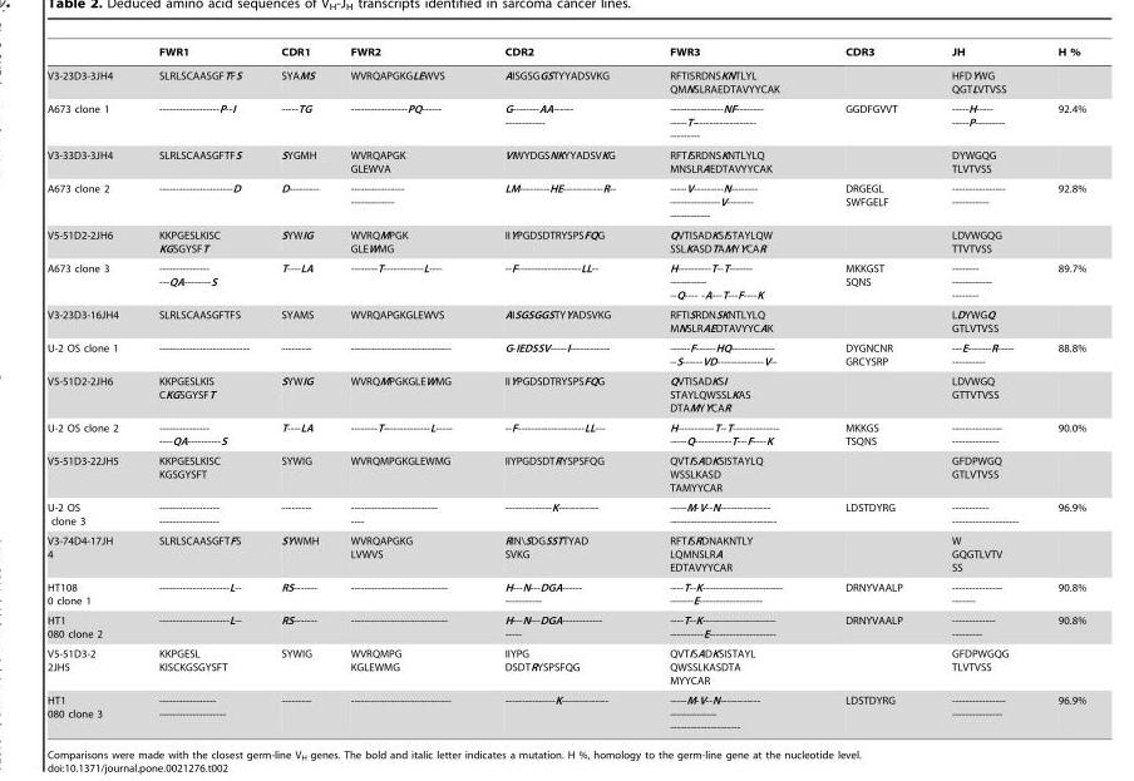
<table><thead><tr><td></td><td>FWR1</td><td>CDR1</td><td>FWR2</td><td>CDR2</td><td>FWR3</td><td>CDR3</td><td>JH</td><td>H %</td></tr></thead><tbody><tr><td>V3-23D3-3JH4</td><td>SLRLSCAASGFTFS</td><td>SYAMS</td><td>WVRQAPGKGLEWVS</td><td>AISGSGGSTYYADSVKG</td><td>RFTISRDNSKNTLYL QMNSLRAEDTAVYYCAK</td><td></td><td>HFDYWG QGTLVTVSS</td><td></td></tr><tr><td>A673 clone 1</td><td>------------------P--I</td><td>-----TG</td><td>-----------------PQ------</td><td>G--------AA------ ------------</td><td>----------------NF-------- -----T------------------- ---------</td><td>GGDFGVVT</td><td>-----H----- -----P---------</td><td>92.4%</td></tr><tr><td>V3-33D3-3JH4</td><td>SLRLSCAASGFTFS</td><td>SYGMH</td><td>WVRQAPGK GLEWVA</td><td>VIWYDGSNKYYADSVKG</td><td>RFTISRDNSKNTLYLQ MNSLRAEDTAVYYCAK</td><td></td><td>DYWGQG TLVTVSS</td><td></td></tr><tr><td>A673 clone 2</td><td>----------------------D</td><td>D---------</td><td>---------------- -------------</td><td>LM---------HE------------R--</td><td>-----V---------N-------- ---------------V-------- ------------</td><td>DRGEGL SWFGELF</td><td>---------------- -----------</td><td>92.8%</td></tr><tr><td>V5-51D2-2JH6</td><td>KKPGESLKISC KGSGYSFT</td><td>SYWIG</td><td>WVRQMPGK GLEWMG</td><td>IIYPGDSDTRYSPSFQG</td><td>QVTISADKSISTAYLQW SSLKASDTAMYYCAR</td><td></td><td>LDVWGQG TTVTVSS</td><td></td></tr><tr><td>A673 clone 3</td><td>--------------- ---QA--------S</td><td>T----LA</td><td>--------T------------L----</td><td>--F-------------------LL--</td><td>H----------T--T------- ----------- --Q---- -A---T---F----K</td><td>MKKGST SQNS</td><td>-------- ------------ --------</td><td>89.7%</td></tr><tr><td>V3-23D3-16JH4</td><td>SLRLSCAASGFTFS</td><td>SYAMS</td><td>WVRQAPGKGLEWVS</td><td>AISGSGGSTYYADSVKG</td><td>RFTISRDNSKNTLYLQ MNSLRAEDTAVYYCAK</td><td></td><td>LDYWGQ GTLVTVSS</td><td></td></tr><tr><td>U-2 OS clone 1</td><td>---------------------------</td><td>---------</td><td>------------------------------</td><td>G-IEDSSV-----I------------</td><td>------F------HQ------------- --S------VD--------------V--</td><td>DYGNCNR GRCYSRP</td><td>---E-------R----- ----------</td><td>88.8%</td></tr><tr><td>V5-51D2-2JH6</td><td>KKPGESLKIS CKGSGYSFT</td><td>SYWIG</td><td>WVRQMPGKGLEWMG</td><td>IIYPGDSDTRYSPSFQG</td><td>QVTISADKSI STAYLQWSSLKAS DTAMYYCAR</td><td></td><td>LDVWGQ GTTVTVSS</td><td></td></tr><tr><td>U-2 OS clone 2</td><td>--------------- ----QA----------S</td><td>T----LA</td><td>--------T--------------L-----</td><td>--F--------------------LL---</td><td>H-----------T--T-------------- -----Q-----------T---F----K</td><td>MKKGS TSQNS</td><td>--------------- --------------</td><td>90.0%</td></tr><tr><td>V5-51D3-22JH5</td><td>KKPGESLKISC KGSGYSFT</td><td>SYWIG</td><td>WVRQMPGKGLEWMG</td><td>IIYPGDSDTRYSPSFQG</td><td>QVTISADKSISTAYLQ WSSLKASD TAMYYCAR</td><td></td><td>GFDPWGQ GTLVTVSS</td><td></td></tr><tr><td>U-2 OS clone 3</td><td>------------------ ------------------</td><td>---------</td><td>-------------------------- ----</td><td>--------------K------------</td><td>-----M-V--N--------------- --------------------------------</td><td>LDSTDYRG</td><td>----------- --------------------</td><td>96.9%</td></tr><tr><td>V3-74D4-17JH 4</td><td>SLRLSCAASGFTFS</td><td>SYWMH</td><td>WVRQAPGKG LVWVS</td><td>RIN\SDGSSTTYAD SVKG</td><td>RFTISRDNAKNTLY LQMNSLRA EDTAVYYCAR</td><td></td><td>W GQGTLVTV SS</td><td></td></tr><tr><td>HT108 0 clone 1</td><td>---------------------L--</td><td>RS-------</td><td>-----------------------------</td><td>H---N---DGA------ -----------</td><td>----T--K------------------------ -------E-------------------</td><td>DRNYVAALP</td><td>--------------- -------</td><td>90.8%</td></tr><tr><td>HT1 080 clone 2</td><td>---------------------L--</td><td>RS-------</td><td>-----------------------------</td><td>H---N---DGA------------ -----</td><td>----T--K---------------------- ----------E--------------------</td><td>DRNYVAALP</td><td>------------- ---------</td><td>90.8%</td></tr><tr><td>V5-51D3-2 2JH5</td><td>KKPGESL KISCKGSGYSFT</td><td>SYWIG</td><td>WVRQMPG KGLEWMG</td><td>IIYPG DSDTRYSPSFQG</td><td>QVTISADKSISTAYL QWSSLKASDTA MYYCAR</td><td></td><td>GFDPWGQG TLVTVSS</td><td></td></tr><tr><td>HT1 080 clone 3</td><td>----------------- --------------------</td><td>---------</td><td>------------------------------</td><td>---------------K--------------</td><td>-----M-V--N------------ -------------- ---------------------</td><td>LDSTDYRG</td><td>---------------- ---------------</td><td>96.9%</td></tr></tbody></table>